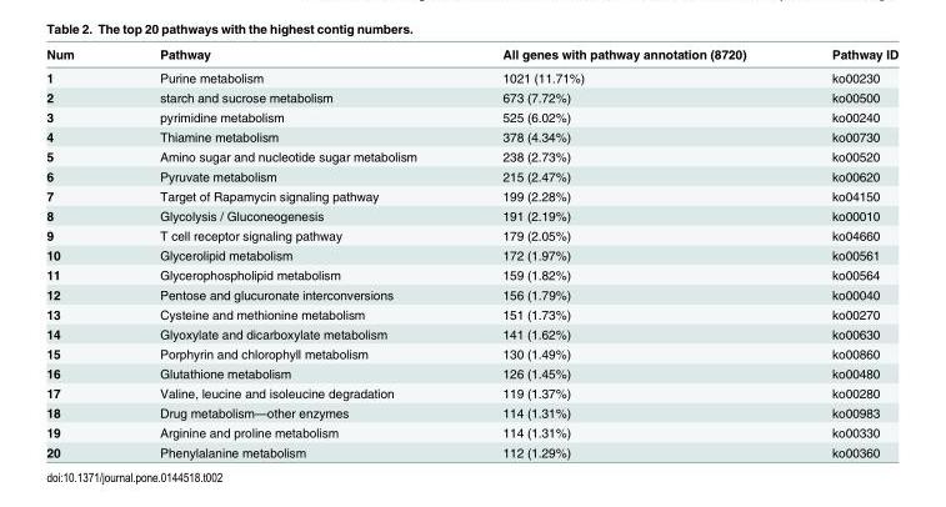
<table><thead><tr><td>Num</td><td>Pathway</td><td>All genes with pathway annotation (8720)</td><td>Pathway ID</td></tr></thead><tbody><tr><td>1</td><td>Purine metabolism</td><td>1021 (11.71%)</td><td>ko00230</td></tr><tr><td>2</td><td>starch and sucrose metabolism</td><td>673 (7.72%)</td><td>ko00500</td></tr><tr><td>3</td><td>pyrimidine metabolism</td><td>525 (6.02%)</td><td>ko00240</td></tr><tr><td>4</td><td>Thiamine metabolism</td><td>378 (4.34%)</td><td>ko00730</td></tr><tr><td>5</td><td>Amino sugar and nucleotide sugar metabolism</td><td>238 (2.73%)</td><td>ko00520</td></tr><tr><td>6</td><td>Pyruvate metabolism</td><td>215 (2.47%)</td><td>ko00620</td></tr><tr><td>7</td><td>Target of Rapamycin signaling pathway</td><td>199 (2.28%)</td><td>ko04150</td></tr><tr><td>8</td><td>Glycolysis / Gluconeogenesis</td><td>191 (2.19%)</td><td>ko00010</td></tr><tr><td>9</td><td>T cell receptor signaling pathway</td><td>179 (2.05%)</td><td>ko04660</td></tr><tr><td>10</td><td>Glycerolipid metabolism</td><td>172 (1.97%)</td><td>ko00561</td></tr><tr><td>11</td><td>Glycerophospholipid metabolism</td><td>159 (1.82%)</td><td>ko00564</td></tr><tr><td>12</td><td>Pentose and glucuronate interconversions</td><td>156 (1.79%)</td><td>ko00040</td></tr><tr><td>13</td><td>Cysteine and methionine metabolism</td><td>151 (1.73%)</td><td>ko00270</td></tr><tr><td>14</td><td>Glyoxylate and dicarboxylate metabolism</td><td>141 (1.62%)</td><td>ko00630</td></tr><tr><td>15</td><td>Porphyrin and chlorophyll metabolism</td><td>130 (1.49%)</td><td>ko00860</td></tr><tr><td>16</td><td>Glutathione metabolism</td><td>126 (1.45%)</td><td>ko00480</td></tr><tr><td>17</td><td>Valine, leucine and isoleucine degradation</td><td>119 (1.37%)</td><td>ko00280</td></tr><tr><td>18</td><td>Drug metabolism—other enzymes</td><td>114 (1.31%)</td><td>ko00983</td></tr><tr><td>19</td><td>Arginine and proline metabolism</td><td>114 (1.31%)</td><td>ko00330</td></tr><tr><td>20</td><td>Phenylalanine metabolism</td><td>112 (1.29%)</td><td>ko00360</td></tr></tbody></table>